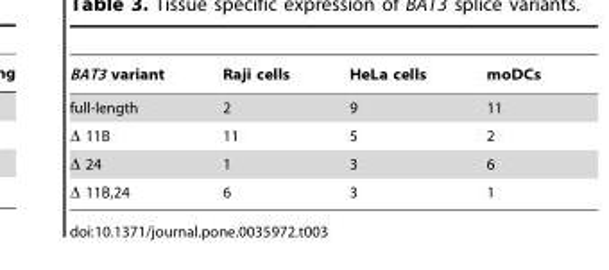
<table><thead><tr><td>BAT3 variant</td><td>Raji cells</td><td>HeLa cells</td><td>moDCs</td></tr></thead><tbody><tr><td>full-length</td><td>2</td><td>9</td><td>11</td></tr><tr><td>Δ 11B</td><td>11</td><td>5</td><td>2</td></tr><tr><td>Δ 24</td><td>1</td><td>3</td><td>6</td></tr><tr><td>Δ 11B,24</td><td>6</td><td>3</td><td>1</td></tr></tbody></table>